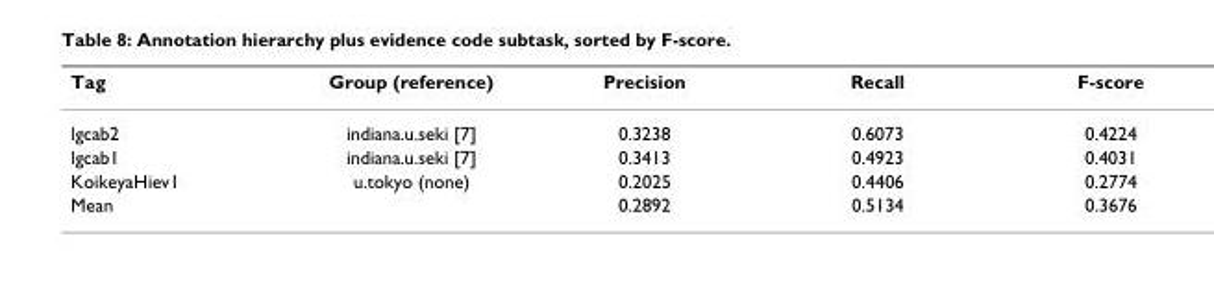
<table><thead><tr><td>Tag</td><td>Group (reference)</td><td>Precision</td><td>Recall</td><td>F-score</td></tr></thead><tbody><tr><td>lgcab2</td><td>indiana.u.seki [7]</td><td>0.3238</td><td>0.6073</td><td>0.4224</td></tr><tr><td>lgcab1</td><td>indiana.u.seki [7]</td><td>0.3413</td><td>0.4923</td><td>0.4031</td></tr><tr><td>KoikeyaHiev1</td><td>u.tokyo (none)</td><td>0.2025</td><td>0.4406</td><td>0.2774</td></tr><tr><td>Mean</td><td></td><td>0.2892</td><td>0.5134</td><td>0.3676</td></tr></tbody></table>